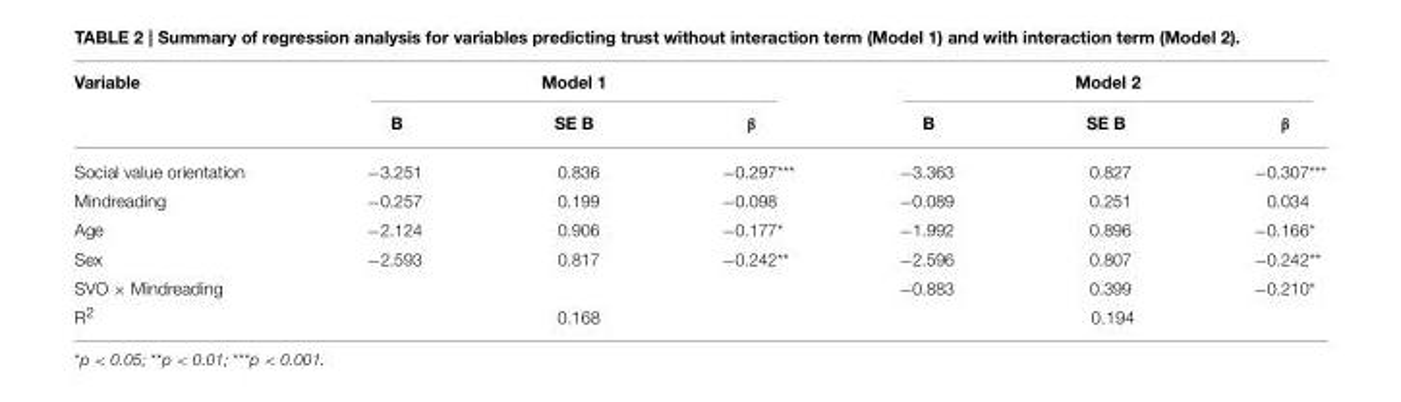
<table><thead><tr><td rowspan="2">Variable</td><td colspan="3">Model 1</td><td colspan="3">Model 2</td></tr><tr><td>B</td><td>SE B</td><td>β</td><td>B</td><td>SE B</td><td>β</td></tr></thead><tbody><tr><td>Social value orientation</td><td>−3.251</td><td>0.836</td><td>−0.297***</td><td>−3.363</td><td>0.827</td><td>−0.307***</td></tr><tr><td>Mindreading</td><td>−0.257</td><td>0.199</td><td>−0.098</td><td>−0.089</td><td>0.251</td><td>0.034</td></tr><tr><td>Age</td><td>−2.124</td><td>0.906</td><td>−0.177*</td><td>−1.992</td><td>0.896</td><td>−0.166*</td></tr><tr><td>Sex</td><td>−2.593</td><td>0.817</td><td>−0.242**</td><td>−2.596</td><td>0.807</td><td>−0.242**</td></tr><tr><td>SVO × Mindreading</td><td></td><td></td><td></td><td>−0.883</td><td>0.399</td><td>−0.210*</td></tr><tr><td>R<sup>2</sup></td><td></td><td>0.168</td><td></td><td></td><td>0.194</td><td></td></tr></tbody></table>